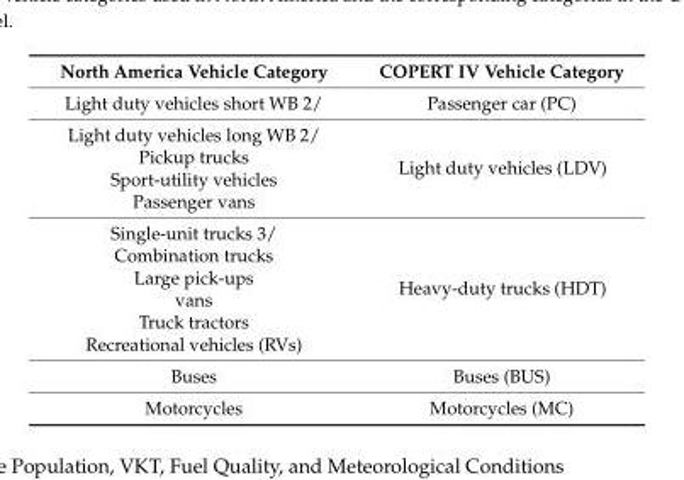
<table><thead><tr><td>North America Vehicle Category</td><td>COPERT IV Vehicle Category</td></tr></thead><tbody><tr><td>Light duty vehicles short WB 2/</td><td>Passenger car (PC)</td></tr><tr><td>Light duty vehicles long WB 2/</td><td rowspan="4">Light duty vehicles (LDV)</td></tr><tr><td>Pickup trucks</td></tr><tr><td>Sport-utility vehicles</td></tr><tr><td>Passenger vans</td></tr><tr><td>Single-unit trucks 3/</td><td rowspan="6">Heavy-duty trucks (HDT)</td></tr><tr><td>Combination trucks</td></tr><tr><td>Large pick-ups</td></tr><tr><td>vans</td></tr><tr><td>Truck tractors</td></tr><tr><td>Recreational vehicles (RVs)</td></tr><tr><td>Buses</td><td>Buses (BUS)</td></tr><tr><td>Motorcycles</td><td>Motorcycles (MC)</td></tr></tbody></table>